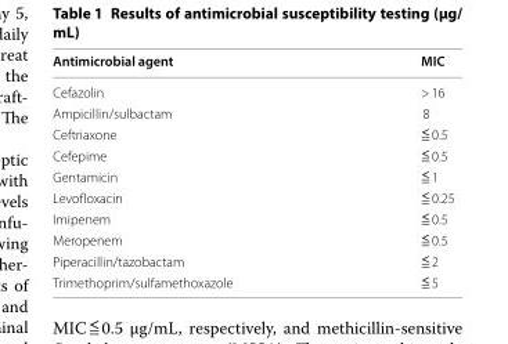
<table><thead><tr><td>Antimicrobial agent</td><td>MIC</td></tr></thead><tbody><tr><td>Cefazolin</td><td>&gt; 16</td></tr><tr><td>Ampicillin/sulbactam</td><td>8</td></tr><tr><td>Ceftriaxone</td><td>≦ 0.5</td></tr><tr><td>Cefepime</td><td>≦ 0.5</td></tr><tr><td>Gentamicin</td><td>≦ 1</td></tr><tr><td>Levofloxacin</td><td>≦ 0.25</td></tr><tr><td>Imipenem</td><td>≦ 0.5</td></tr><tr><td>Meropenem</td><td>≦ 0.5</td></tr><tr><td>Piperacillin/tazobactam</td><td>≦ 2</td></tr><tr><td>Trimethoprim/sulfamethoxazole</td><td>≦ 5</td></tr></tbody></table>